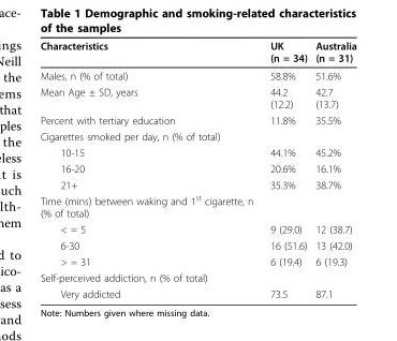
<table><thead><tr><td>Characteristics</td><td>UK (n = 34)</td><td>Australia (n = 31)</td></tr></thead><tbody><tr><td>Males, n (% of total)</td><td>58.8%</td><td>51.6%</td></tr><tr><td>Mean Age ± SD, years</td><td>44.2 (12.2)</td><td>42.7 (13.7)</td></tr><tr><td>Percent with tertiary education</td><td>11.8%</td><td>35.5%</td></tr><tr><td colspan="3">Cigarettes smoked per day, n (% of total)</td></tr><tr><td>10-15</td><td>44.1%</td><td>45.2%</td></tr><tr><td>16-20</td><td>20.6%</td><td>16.1%</td></tr><tr><td>21+</td><td>35.3%</td><td>38.7%</td></tr><tr><td colspan="3">Time (mins) between waking and 1<sup>st</sup> cigarette, n (% of total)</td></tr><tr><td>&lt; = 5</td><td>9 (29.0)</td><td>12 (38.7)</td></tr><tr><td>6-30</td><td>16 (51.6)</td><td>13 (42.0)</td></tr><tr><td>&gt; = 31</td><td>6 (19.4)</td><td>6 (19.3)</td></tr><tr><td colspan="3">Self-perceived addiction, n (% of total)</td></tr><tr><td>Very addicted</td><td>73.5</td><td>87.1</td></tr></tbody></table>